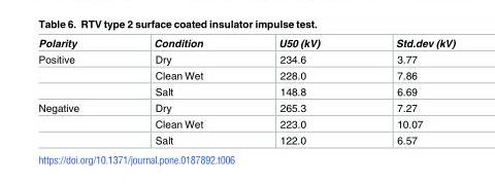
<table><thead><tr><td>Polarity</td><td>Condition</td><td>U50 (kV)</td><td>Std.dev (kV)</td></tr></thead><tbody><tr><td rowspan="3">Positive</td><td>Dry</td><td>234.6</td><td>3.77</td></tr><tr><td>Clean Wet</td><td>228.0</td><td>7.86</td></tr><tr><td>Salt</td><td>148.8</td><td>6.69</td></tr><tr><td rowspan="3">Negative</td><td>Dry</td><td>265.3</td><td>7.27</td></tr><tr><td>Clean Wet</td><td>223.0</td><td>10.07</td></tr><tr><td>Salt</td><td>122.0</td><td>6.57</td></tr></tbody></table>